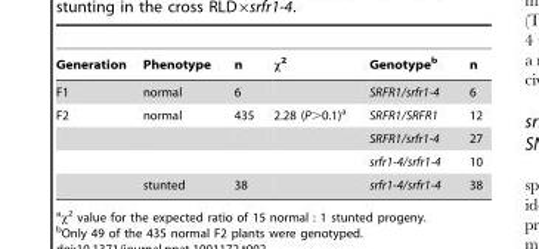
<table><thead><tr><td>Generation</td><td>Phenotype</td><td>n</td><td>χ<sup>2</sup></td><td>Genotype<sup>b</sup></td><td>n</td></tr></thead><tbody><tr><td>F1</td><td>normal</td><td>6</td><td></td><td>SRFR1/srfr1-4</td><td>6</td></tr><tr><td rowspan="4">F2</td><td>normal</td><td>435</td><td>2.28 (P&gt;0.1)<sup>a</sup></td><td>SRFR1/SRFR1</td><td>12</td></tr><tr><td></td><td></td><td></td><td>SRFR1/srfr1-4</td><td>27</td></tr><tr><td></td><td></td><td></td><td>srfr1-4/srfr1-4</td><td>10</td></tr><tr><td>stunted</td><td>38</td><td></td><td>srfr1-4/srfr1-4</td><td>38</td></tr></tbody></table>